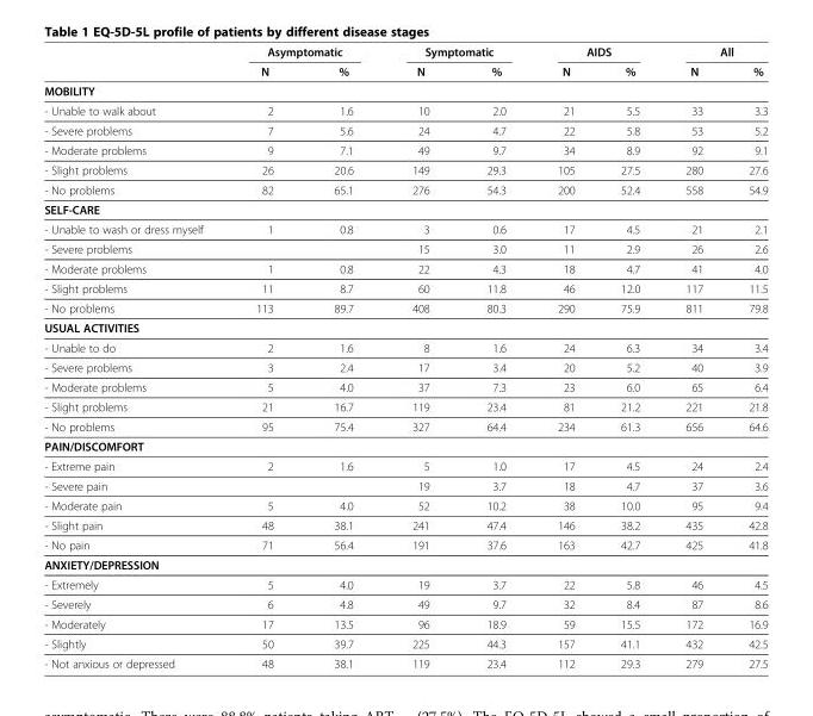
<table><thead><tr><td rowspan="2"></td><td colspan="2">Asymptomatic</td><td colspan="2">Symptomatic</td><td colspan="2">AIDS</td><td colspan="2">All</td></tr><tr><td>N</td><td>%</td><td>N</td><td>%</td><td>N</td><td>%</td><td>N</td><td>%</td></tr></thead><tbody><tr><td colspan="9">MOBILITY</td></tr><tr><td>- Unable to walk about</td><td>2</td><td>1.6</td><td>10</td><td>2.0</td><td>21</td><td>5.5</td><td>33</td><td>3.3</td></tr><tr><td>- Severe problems</td><td>7</td><td>5.6</td><td>24</td><td>4.7</td><td>22</td><td>5.8</td><td>53</td><td>5.2</td></tr><tr><td>- Moderate problems</td><td>9</td><td>7.1</td><td>49</td><td>9.7</td><td>34</td><td>8.9</td><td>92</td><td>9.1</td></tr><tr><td>- Slight problems</td><td>26</td><td>20.6</td><td>149</td><td>29.3</td><td>105</td><td>27.5</td><td>280</td><td>27.6</td></tr><tr><td>- No problems</td><td>82</td><td>65.1</td><td>276</td><td>54.3</td><td>200</td><td>52.4</td><td>558</td><td>54.9</td></tr><tr><td colspan="9">SELF-CARE</td></tr><tr><td>- Unable to wash or dress myself</td><td>1</td><td>0.8</td><td>3</td><td>0.6</td><td>17</td><td>4.5</td><td>21</td><td>2.1</td></tr><tr><td>- Severe problems</td><td></td><td></td><td>15</td><td>3.0</td><td>11</td><td>2.9</td><td>26</td><td>2.6</td></tr><tr><td>- Moderate problems</td><td>1</td><td>0.8</td><td>22</td><td>4.3</td><td>18</td><td>4.7</td><td>41</td><td>4.0</td></tr><tr><td>- Slight problems</td><td>11</td><td>8.7</td><td>60</td><td>11.8</td><td>46</td><td>12.0</td><td>117</td><td>11.5</td></tr><tr><td>- No problems</td><td>113</td><td>89.7</td><td>408</td><td>80.3</td><td>290</td><td>75.9</td><td>811</td><td>79.8</td></tr><tr><td colspan="9">USUAL ACTIVITIES</td></tr><tr><td>- Unable to do</td><td>2</td><td>1.6</td><td>8</td><td>1.6</td><td>24</td><td>6.3</td><td>34</td><td>3.4</td></tr><tr><td>- Severe problems</td><td>3</td><td>2.4</td><td>17</td><td>3.4</td><td>20</td><td>5.2</td><td>40</td><td>3.9</td></tr><tr><td>- Moderate problems</td><td>5</td><td>4.0</td><td>37</td><td>7.3</td><td>23</td><td>6.0</td><td>65</td><td>6.4</td></tr><tr><td>- Slight problems</td><td>21</td><td>16.7</td><td>119</td><td>23.4</td><td>81</td><td>21.2</td><td>221</td><td>21.8</td></tr><tr><td>- No problems</td><td>95</td><td>75.4</td><td>327</td><td>64.4</td><td>234</td><td>61.3</td><td>656</td><td>64.6</td></tr><tr><td colspan="9">PAIN/DISCOMFORT</td></tr><tr><td>- Extreme pain</td><td>2</td><td>1.6</td><td>5</td><td>1.0</td><td>17</td><td>4.5</td><td>24</td><td>2.4</td></tr><tr><td>- Severe pain</td><td></td><td></td><td>19</td><td>3.7</td><td>18</td><td>4.7</td><td>37</td><td>3.6</td></tr><tr><td>- Moderate pain</td><td>5</td><td>4.0</td><td>52</td><td>10.2</td><td>38</td><td>10.0</td><td>95</td><td>9.4</td></tr><tr><td>- Slight pain</td><td>48</td><td>38.1</td><td>241</td><td>47.4</td><td>146</td><td>38.2</td><td>435</td><td>42.8</td></tr><tr><td>- No pain</td><td>71</td><td>56.4</td><td>191</td><td>37.6</td><td>163</td><td>42.7</td><td>425</td><td>41.8</td></tr><tr><td colspan="9">ANXIETY/DEPRESSION</td></tr><tr><td>- Extremely</td><td>5</td><td>4.0</td><td>19</td><td>3.7</td><td>22</td><td>5.8</td><td>46</td><td>4.5</td></tr><tr><td>- Severely</td><td>6</td><td>4.8</td><td>49</td><td>9.7</td><td>32</td><td>8.4</td><td>87</td><td>8.6</td></tr><tr><td>- Moderately</td><td>17</td><td>13.5</td><td>96</td><td>18.9</td><td>59</td><td>15.5</td><td>172</td><td>16.9</td></tr><tr><td>- Slightly</td><td>50</td><td>39.7</td><td>225</td><td>44.3</td><td>157</td><td>41.1</td><td>432</td><td>42.5</td></tr><tr><td>- Not anxious or depressed</td><td>48</td><td>38.1</td><td>119</td><td>23.4</td><td>112</td><td>29.3</td><td>279</td><td>27.5</td></tr></tbody></table>